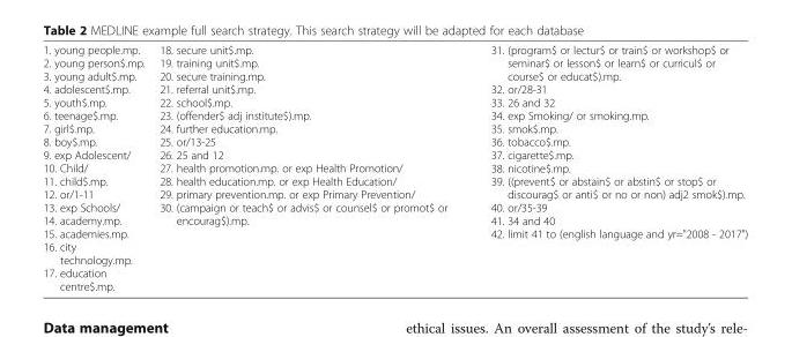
<table><tbody><tr><td>1. young people.mp. 2. young person$.mp. 3. young adult$.mp. 4. adolescent$.mp. 5. youth$.mp. 6. teenage$.mp. 7. girl$.mp. 8. boy$.mp. 9. exp Adolescent/ 10. Child/ 11. child$.mp. 12. or/1-11 13. exp Schools/ 14. academy.mp. 15. academies.mp. 16. city technology.mp. 17. education centre$.mp.</td><td>18. secure unit$.mp. 19. training unit$.mp. 20. secure training.mp. 21. referral unit$.mp. 22. school$.mp. 23. (offender$ adj institute$).mp. 24. further education.mp. 25. or/13-25 26. 25 and 12 27. health promotion.mp. or exp Health Promotion/ 28. health education.mp. or exp Health Education/ 29. primary prevention.mp. or exp Primary Prevention/ 30. (campaign or teach$ or advis$ or counsel$ or promot$ or encourag$).mp.</td><td>31. (program$ or lectur$ or train$ or workshop$ or seminar$ or lesson$ or learn$ or curricul$ or course$ or educat$).mp. 32. or/28-31 33. 26 and 32 34. exp Smoking/ or smoking.mp. 35. smok$.mp. 36. tobacco$.mp. 37. cigarette$.mp. 38. nicotine$.mp. 39. ((prevent$ or abstain$ or abstin$ or stop$ or discourag$ or anti$ or no or non) adj2 smok$).mp. 40. or/35-39 41. 34 and 40 42. limit 41 to (english language and yr=&quot;2008 - 2017&quot;)</td></tr></tbody></table>